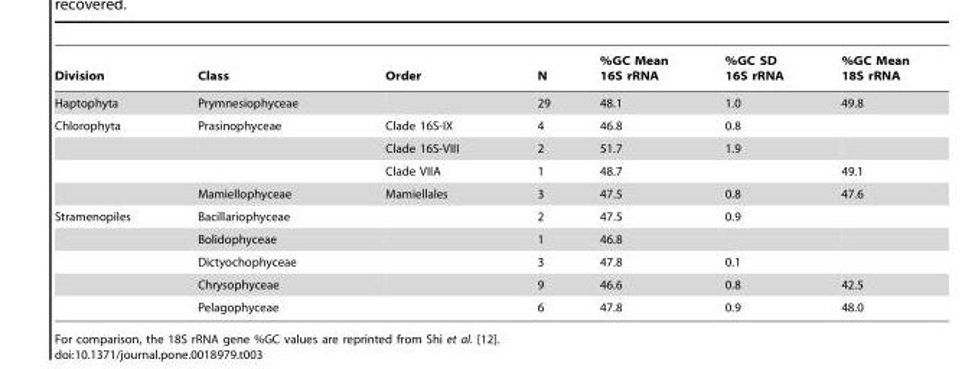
<table><thead><tr><td>Division</td><td>Class</td><td>Order</td><td>N</td><td>%GC Mean 16S rRNA</td><td>%GC SD 16S rRNA</td><td>%GC Mean 18S rRNA</td></tr></thead><tbody><tr><td>Haptophyta</td><td>Prymnesiophyceae</td><td></td><td>29</td><td>48.1</td><td>1.0</td><td>49.8</td></tr><tr><td rowspan="4">Chlorophyta</td><td>Prasinophyceae</td><td>Clade 16S-IX</td><td>4</td><td>46.8</td><td>0.8</td><td></td></tr><tr><td></td><td>Clade 16S-VIII</td><td>2</td><td>51.7</td><td>1.9</td><td></td></tr><tr><td></td><td>Clade VIIA</td><td>1</td><td>48.7</td><td></td><td>49.1</td></tr><tr><td>Mamiellophyceae</td><td>Mamiellales</td><td>3</td><td>47.5</td><td>0.8</td><td>47.6</td></tr><tr><td rowspan="5">Stramenopiles</td><td>Bacillariophyceae</td><td></td><td>2</td><td>47.5</td><td>0.9</td><td></td></tr><tr><td>Bolidophyceae</td><td></td><td>1</td><td>46.8</td><td></td><td></td></tr><tr><td>Dictyochophyceae</td><td></td><td>3</td><td>47.8</td><td>0.1</td><td></td></tr><tr><td>Chrysophyceae</td><td></td><td>9</td><td>46.6</td><td>0.8</td><td>42.5</td></tr><tr><td>Pelagophyceae</td><td></td><td>6</td><td>47.8</td><td>0.9</td><td>48.0</td></tr></tbody></table>